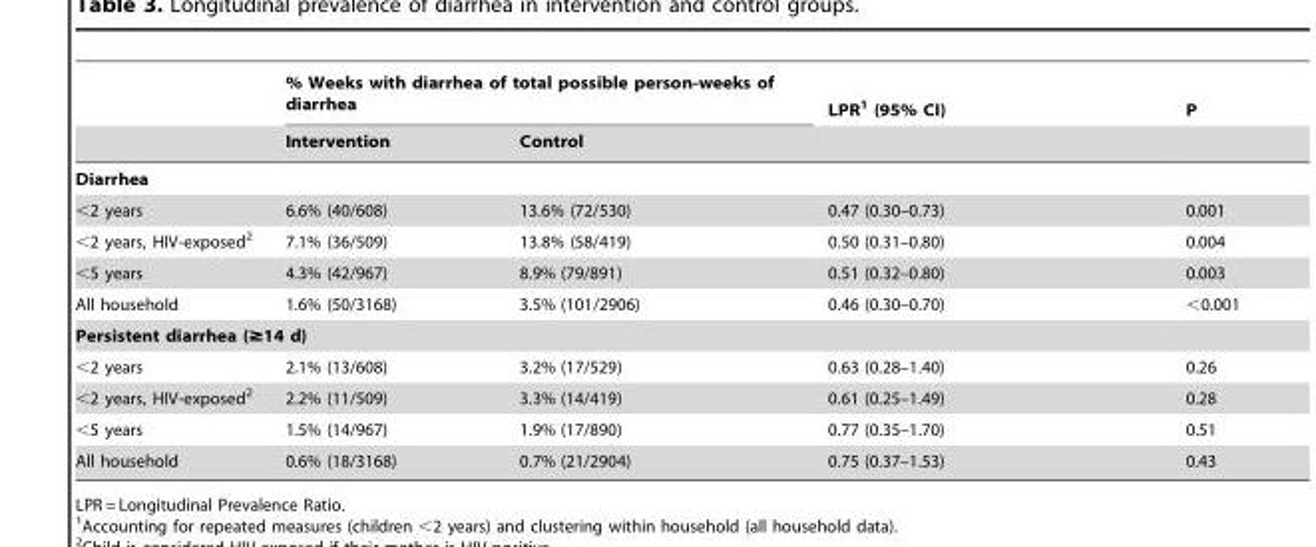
<table><thead><tr><td rowspan="2"></td><td colspan="2">% Weeks with diarrhea of total possible person-weeks of diarrhea</td><td rowspan="2">LPR<sup>1</sup> (95% CI)</td><td rowspan="2">P</td></tr><tr><td>Intervention</td><td>Control</td></tr></thead><tbody><tr><td colspan="5">Diarrhea</td></tr><tr><td>&lt;2 years</td><td>6.6% (40/608)</td><td>13.6% (72/530)</td><td>0.47 (0.30–0.73)</td><td>0.001</td></tr><tr><td>&lt;2 years, HIV-exposed<sup>2</sup></td><td>7.1% (36/509)</td><td>13.8% (58/419)</td><td>0.50 (0.31–0.80)</td><td>0.004</td></tr><tr><td>&lt;5 years</td><td>4.3% (42/967)</td><td>8.9% (79/891)</td><td>0.51 (0.32–0.80)</td><td>0.003</td></tr><tr><td>All household</td><td>1.6% (50/3168)</td><td>3.5% (101/2906)</td><td>0.46 (0.30–0.70)</td><td>&lt;0.001</td></tr><tr><td colspan="5">Persistent diarrhea (≥14 d)</td></tr><tr><td>&lt;2 years</td><td>2.1% (13/608)</td><td>3.2% (17/529)</td><td>0.63 (0.28–1.40)</td><td>0.26</td></tr><tr><td>&lt;2 years, HIV-exposed<sup>2</sup></td><td>2.2% (11/509)</td><td>3.3% (14/419)</td><td>0.61 (0.25–1.49)</td><td>0.28</td></tr><tr><td>&lt;5 years</td><td>1.5% (14/967)</td><td>1.9% (17/890)</td><td>0.77 (0.35–1.70)</td><td>0.51</td></tr><tr><td>All household</td><td>0.6% (18/3168)</td><td>0.7% (21/2904)</td><td>0.75 (0.37–1.53)</td><td>0.43</td></tr></tbody></table>